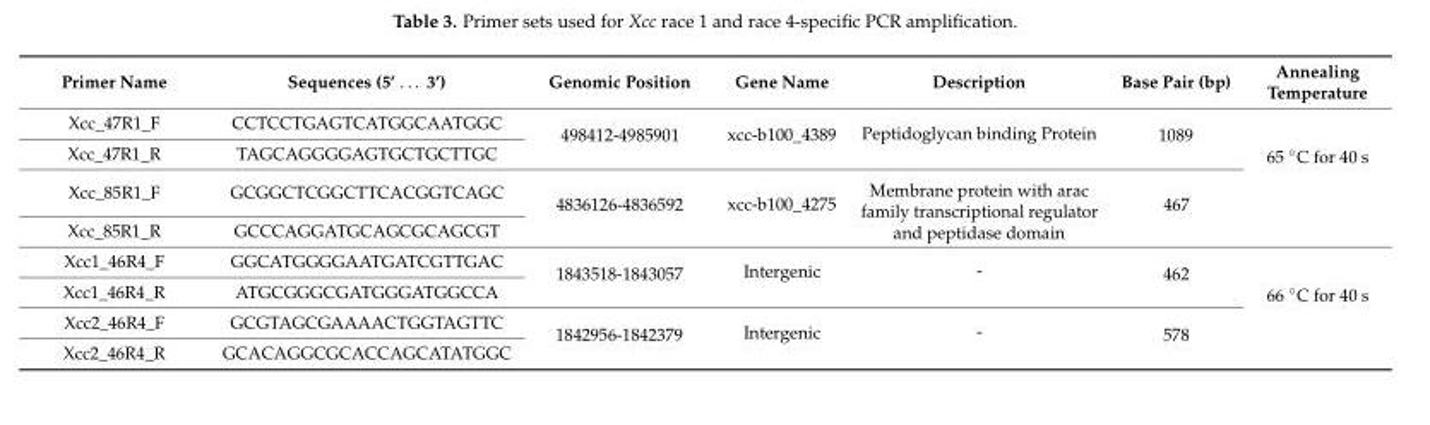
<table><thead><tr><td>Primer Name</td><td>Sequences (5’ . . . 3’)</td><td>Genomic Position</td><td>Gene Name</td><td>Description</td><td>Base Pair (bp)</td><td>Annealing Temperature</td></tr></thead><tbody><tr><td>Xcc_47R1_F</td><td>CCTCCTGAGTCATGGCAATGGC</td><td rowspan="2">498412-4985901</td><td rowspan="2">xcc-b100_4389</td><td rowspan="2">Peptidoglycan binding Protein</td><td rowspan="2">1089</td><td rowspan="4">65 ◦C for 40 s</td></tr><tr><td>Xcc_47R1_R</td><td>TAGCAGGGGAGTGCTGCTTGC</td></tr><tr><td>Xcc_85R1_F</td><td>GCGGCTCGGCTTCACGGTCAGC</td><td rowspan="2">4836126-4836592</td><td rowspan="2">xcc-b100_4275</td><td rowspan="2">Membrane protein with arac family transcriptional regulator and peptidase domain</td><td rowspan="2">467</td></tr><tr><td>Xcc_85R1_R</td><td>GCCCAGGATGCAGCGCAGCGT</td></tr><tr><td>Xcc1_46R4_F</td><td>GGCATGGGGAATGATCGTTGAC</td><td rowspan="2">1843518-1843057</td><td rowspan="2">Intergenic</td><td rowspan="2">-</td><td rowspan="2">462</td><td rowspan="4">66 ◦C for 40 s</td></tr><tr><td>Xcc1_46R4_R</td><td>ATGCGGGCGATGGGATGGCCA</td></tr><tr><td>Xcc2_46R4_F</td><td>GCGTAGCGAAAACTGGTAGTTC</td><td rowspan="2">1842956-1842379</td><td rowspan="2">Intergenic</td><td rowspan="2">-</td><td rowspan="2">578</td></tr><tr><td>Xcc2_46R4_R</td><td>GCACAGGCGCACCAGCATATGGC</td></tr></tbody></table>